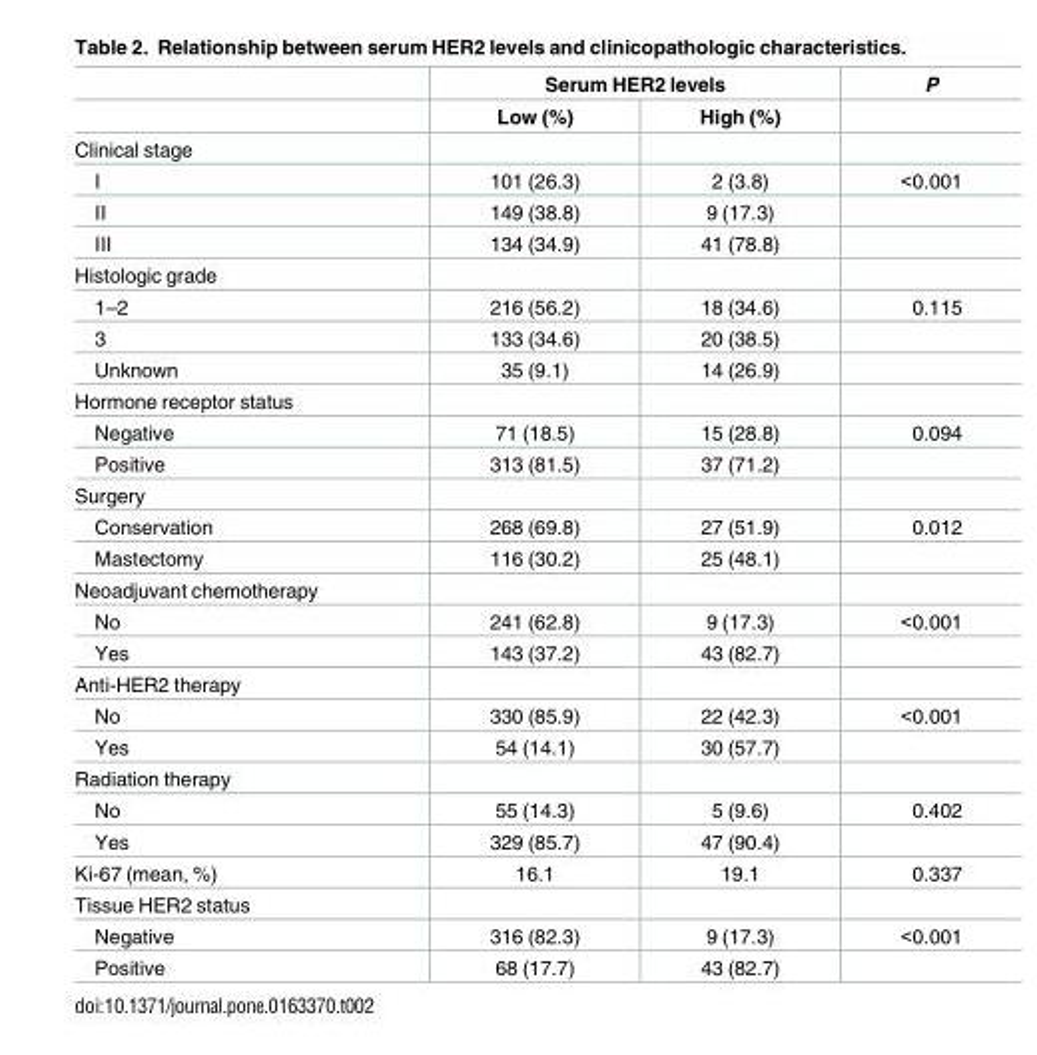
<table><thead><tr><td rowspan="2"></td><td colspan="2">Serum HER2 levels</td><td rowspan="2">P</td></tr><tr><td>Low (%)</td><td>High (%)</td></tr></thead><tbody><tr><td colspan="4">Clinical stage</td></tr><tr><td>I</td><td>101 (26.3)</td><td>2 (3.8)</td><td>&lt;0.001</td></tr><tr><td>II</td><td>149 (38.8)</td><td>9 (17.3)</td><td></td></tr><tr><td>III</td><td>134 (34.9)</td><td>41 (78.8)</td><td></td></tr><tr><td colspan="4">Histologic grade</td></tr><tr><td>1–2</td><td>216 (56.2)</td><td>18 (34.6)</td><td>0.115</td></tr><tr><td>3</td><td>133 (34.6)</td><td>20 (38.5)</td><td></td></tr><tr><td>Unknown</td><td>35 (9.1)</td><td>14 (26.9)</td><td></td></tr><tr><td colspan="4">Hormone receptor status</td></tr><tr><td>Negative</td><td>71 (18.5)</td><td>15 (28.8)</td><td>0.094</td></tr><tr><td>Positive</td><td>313 (81.5)</td><td>37 (71.2)</td><td></td></tr><tr><td colspan="4">Surgery</td></tr><tr><td>Conservation</td><td>268 (69.8)</td><td>27 (51.9)</td><td>0.012</td></tr><tr><td>Mastectomy</td><td>116 (30.2)</td><td>25 (48.1)</td><td></td></tr><tr><td colspan="4">Neoadjuvant chemotherapy</td></tr><tr><td>No</td><td>241 (62.8)</td><td>9 (17.3)</td><td>&lt;0.001</td></tr><tr><td>Yes</td><td>143 (37.2)</td><td>43 (82.7)</td><td></td></tr><tr><td colspan="4">Anti-HER2 therapy</td></tr><tr><td>No</td><td>330 (85.9)</td><td>22 (42.3)</td><td>&lt;0.001</td></tr><tr><td>Yes</td><td>54 (14.1)</td><td>30 (57.7)</td><td></td></tr><tr><td colspan="4">Radiation therapy</td></tr><tr><td>No</td><td>55 (14.3)</td><td>5 (9.6)</td><td>0.402</td></tr><tr><td>Yes</td><td>329 (85.7)</td><td>47 (90.4)</td><td></td></tr><tr><td>Ki-67 (mean, %)</td><td>16.1</td><td>19.1</td><td>0.337</td></tr><tr><td colspan="4">Tissue HER2 status</td></tr><tr><td>Negative</td><td>316 (82.3)</td><td>9 (17.3)</td><td>&lt;0.001</td></tr><tr><td>Positive</td><td>68 (17.7)</td><td>43 (82.7)</td><td></td></tr></tbody></table>